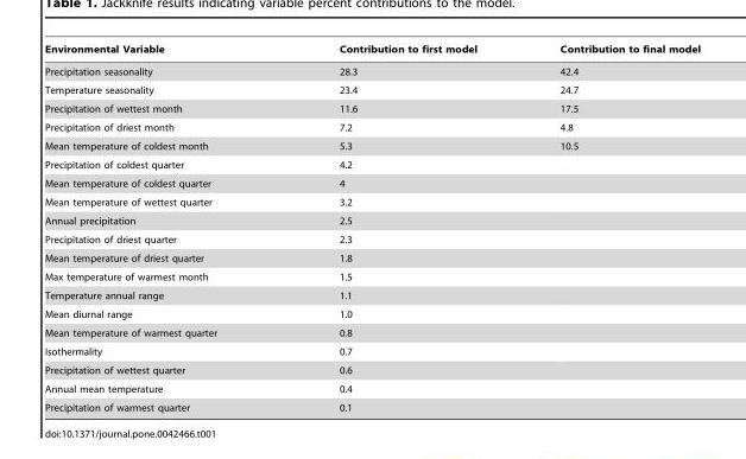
<table><thead><tr><td>Environmental Variable</td><td>Contribution to first model</td><td>Contribution to final model</td></tr></thead><tbody><tr><td>Precipitation seasonality</td><td>28.3</td><td>42.4</td></tr><tr><td>Temperature seasonality</td><td>23.4</td><td>24.7</td></tr><tr><td>Precipitation of wettest month</td><td>11.6</td><td>17.5</td></tr><tr><td>Precipitation of driest month</td><td>7.2</td><td>4.8</td></tr><tr><td>Mean temperature of coldest month</td><td>5.3</td><td>10.5</td></tr><tr><td>Precipitation of coldest quarter</td><td>4.2</td><td></td></tr><tr><td>Mean temperature of coldest quarter</td><td>4</td><td></td></tr><tr><td>Mean temperature of wettest quarter</td><td>3.2</td><td></td></tr><tr><td>Annual precipitation</td><td>2.5</td><td></td></tr><tr><td>Precipitation of driest quarter</td><td>2.3</td><td></td></tr><tr><td>Mean temperature of driest quarter</td><td>1.8</td><td></td></tr><tr><td>Max temperature of warmest month</td><td>1.5</td><td></td></tr><tr><td>Temperature annual range</td><td>1.1</td><td></td></tr><tr><td>Mean diurnal range</td><td>1.0</td><td></td></tr><tr><td>Mean temperature of warmest quarter</td><td>0.8</td><td></td></tr><tr><td>Isothermality</td><td>0.7</td><td></td></tr><tr><td>Precipitation of wettest quarter</td><td>0.6</td><td></td></tr><tr><td>Annual mean temperature</td><td>0.4</td><td></td></tr><tr><td>Precipitation of warmest quarter</td><td>0.1</td><td></td></tr></tbody></table>